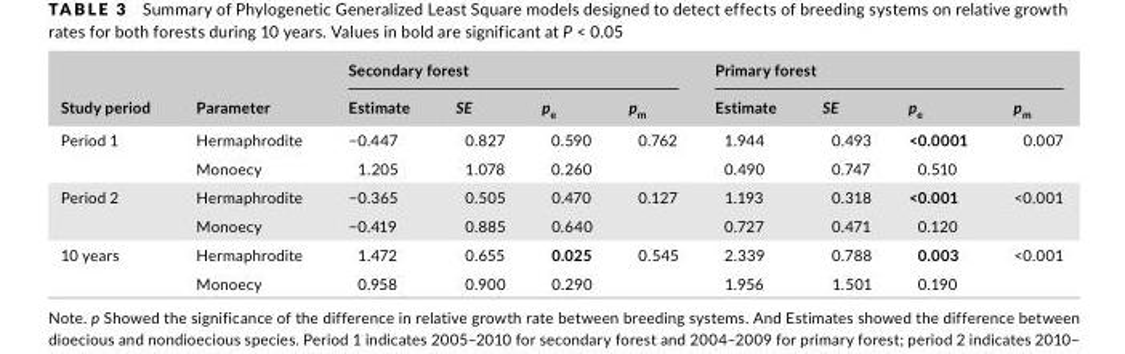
<table><thead><tr><td rowspan="2">Study period</td><td rowspan="2">Parameter</td><td colspan="4">Secondary forest</td><td colspan="4">Primary forest</td></tr><tr><td>Estimate</td><td>SE</td><td>p<sub>e</sub></td><td>p<sub>m</sub></td><td>Estimate</td><td>SE</td><td>p<sub>e</sub></td><td>p<sub>m</sub></td></tr></thead><tbody><tr><td rowspan="2">Period 1</td><td>Hermaphrodite</td><td>−0.447</td><td>0.827</td><td>0.590</td><td rowspan="2">0.762</td><td>1.944</td><td>0.493</td><td>&lt;0.0001</td><td rowspan="2">0.007</td></tr><tr><td>Monoecy</td><td>1.205</td><td>1.078</td><td>0.260</td><td>0.490</td><td>0.747</td><td>0.510</td></tr><tr><td rowspan="2">Period 2</td><td>Hermaphrodite</td><td>−0.365</td><td>0.505</td><td>0.470</td><td rowspan="2">0.127</td><td>1.193</td><td>0.318</td><td>&lt;0.001</td><td rowspan="2">&lt;0.001</td></tr><tr><td>Monoecy</td><td>−0.419</td><td>0.885</td><td>0.640</td><td>0.727</td><td>0.471</td><td>0.120</td></tr><tr><td rowspan="2">10 years</td><td>Hermaphrodite</td><td>1.472</td><td>0.655</td><td>0.025</td><td rowspan="2">0.545</td><td>2.339</td><td>0.788</td><td>0.003</td><td rowspan="2">&lt;0.001</td></tr><tr><td>Monoecy</td><td>0.958</td><td>0.900</td><td>0.290</td><td>1.956</td><td>1.501</td><td>0.190</td></tr></tbody></table>